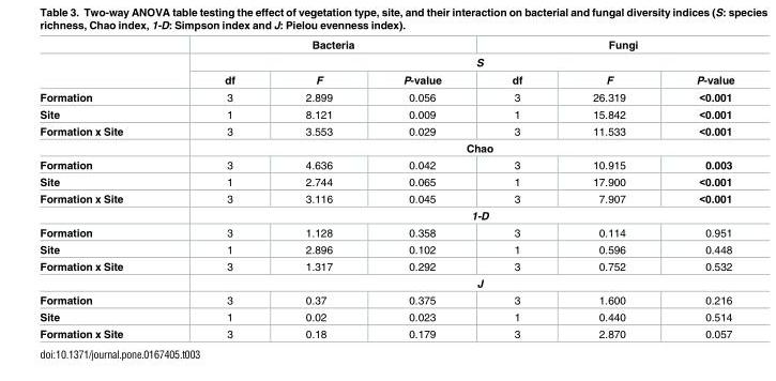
<table><thead><tr><td rowspan="3"></td><td colspan="3">Bacteria</td><td colspan="3">Fungi</td></tr><tr><td colspan="6">S</td></tr><tr><td>df</td><td>F</td><td>P-value</td><td>df</td><td>F</td><td>P-value</td></tr></thead><tbody><tr><td>Formation</td><td>3</td><td>2.899</td><td>0.056</td><td>3</td><td>26.319</td><td>&lt;0.001</td></tr><tr><td>Site</td><td>1</td><td>8.121</td><td>0.009</td><td>1</td><td>15.842</td><td>&lt;0.001</td></tr><tr><td rowspan="2">Formation x Site</td><td>3</td><td>3.553</td><td>0.029</td><td>3</td><td>11.533</td><td>&lt;0.001</td></tr><tr><td colspan="6">Chao</td></tr><tr><td>Formation</td><td>3</td><td>4.636</td><td>0.042</td><td>3</td><td>10.915</td><td>0.003</td></tr><tr><td>Site</td><td>1</td><td>2.744</td><td>0.065</td><td>1</td><td>17.900</td><td>&lt;0.001</td></tr><tr><td rowspan="2">Formation x Site</td><td>3</td><td>3.116</td><td>0.045</td><td>3</td><td>7.907</td><td>&lt;0.001</td></tr><tr><td colspan="6">1-D</td></tr><tr><td>Formation</td><td>3</td><td>1.128</td><td>0.358</td><td>3</td><td>0.114</td><td>0.951</td></tr><tr><td>Site</td><td>1</td><td>2.896</td><td>0.102</td><td>1</td><td>0.596</td><td>0.448</td></tr><tr><td rowspan="2">Formation x Site</td><td>3</td><td>1.317</td><td>0.292</td><td>3</td><td>0.752</td><td>0.532</td></tr><tr><td colspan="6">J</td></tr><tr><td>Formation</td><td>3</td><td>0.37</td><td>0.375</td><td>3</td><td>1.600</td><td>0.216</td></tr><tr><td>Site</td><td>1</td><td>0.02</td><td>0.023</td><td>1</td><td>0.440</td><td>0.514</td></tr><tr><td>Formation x Site</td><td>3</td><td>0.18</td><td>0.179</td><td>3</td><td>2.870</td><td>0.057</td></tr></tbody></table>